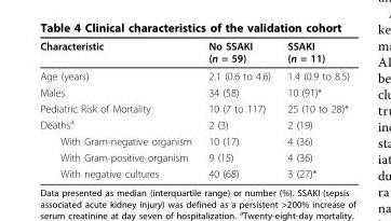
<table><thead><tr><td>Characteristic</td><td>No SSAKI (n = 59)</td><td>SSAKI (n = 11)</td></tr></thead><tbody><tr><td>Age (years)</td><td>2.1 (0.6 to 4.6)</td><td>1.4 (0.9 to 8.5)</td></tr><tr><td>Males</td><td>34 (58)</td><td>10 (91)*</td></tr><tr><td>Pediatric Risk of Mortality</td><td>10 (7 to 117)</td><td>25 (10 to 28)*</td></tr><tr><td>Deaths<sup>a</sup></td><td>2 (3)</td><td>2 (19)</td></tr><tr><td>With Gram-negative organism</td><td>10 (17)</td><td>4 (36)</td></tr><tr><td>With Gram-positive organism</td><td>9 (15)</td><td>4 (36)</td></tr><tr><td>With negative cultures</td><td>40 (68)</td><td>3 (27)*</td></tr></tbody></table>